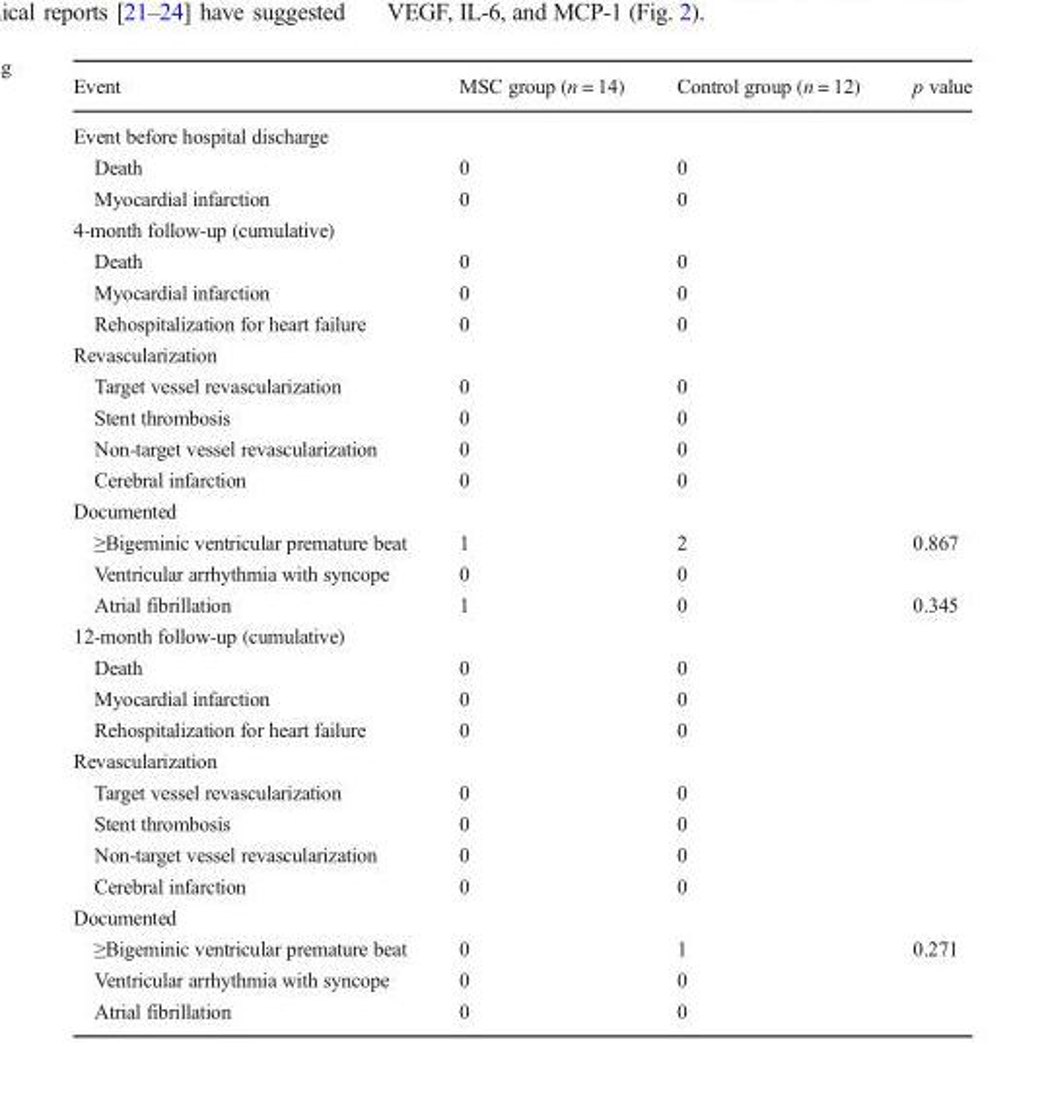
<table><thead><tr><td>Event</td><td>MSC group (n = 14)</td><td>Control group (n = 12)</td><td>p value</td></tr></thead><tbody><tr><td colspan="4">Event before hospital discharge</td></tr><tr><td>Death</td><td>0</td><td>0</td><td></td></tr><tr><td>Myocardial infarction</td><td>0</td><td>0</td><td></td></tr><tr><td colspan="4">4-month follow-up (cumulative)</td></tr><tr><td>Death</td><td>0</td><td>0</td><td></td></tr><tr><td>Myocardial infarction</td><td>0</td><td>0</td><td></td></tr><tr><td>Rehospitalization for heart failure</td><td>0</td><td>0</td><td></td></tr><tr><td colspan="4">Revascularization</td></tr><tr><td>Target vessel revascularization</td><td>0</td><td>0</td><td></td></tr><tr><td>Stent thrombosis</td><td>0</td><td>0</td><td></td></tr><tr><td>Non-target vessel revascularization</td><td>0</td><td>0</td><td></td></tr><tr><td>Cerebral infarction</td><td>0</td><td>0</td><td></td></tr><tr><td colspan="4">Documented</td></tr><tr><td>≥Bigeminic ventricular premature beat</td><td>1</td><td>2</td><td>0.867</td></tr><tr><td>Ventricular arrhythmia with syncope</td><td>0</td><td>0</td><td></td></tr><tr><td>Atrial fibrillation</td><td>1</td><td>0</td><td>0.345</td></tr><tr><td colspan="4">12-month follow-up (cumulative)</td></tr><tr><td>Death</td><td>0</td><td>0</td><td></td></tr><tr><td>Myocardial infarction</td><td>0</td><td>0</td><td></td></tr><tr><td>Rehospitalization for heart failure</td><td>0</td><td>0</td><td></td></tr><tr><td colspan="4">Revascularization</td></tr><tr><td>Target vessel revascularization</td><td>0</td><td>0</td><td></td></tr><tr><td>Stent thrombosis</td><td>0</td><td>0</td><td></td></tr><tr><td>Non-target vessel revascularization</td><td>0</td><td>0</td><td></td></tr><tr><td>Cerebral infarction</td><td>0</td><td>0</td><td></td></tr><tr><td colspan="4">Documented</td></tr><tr><td>≥Bigeminic ventricular premature beat</td><td>0</td><td>1</td><td>0.271</td></tr><tr><td>Ventricular arrhythmia with syncope</td><td>0</td><td>0</td><td></td></tr><tr><td>Atrial fibrillation</td><td>0</td><td>0</td><td></td></tr></tbody></table>